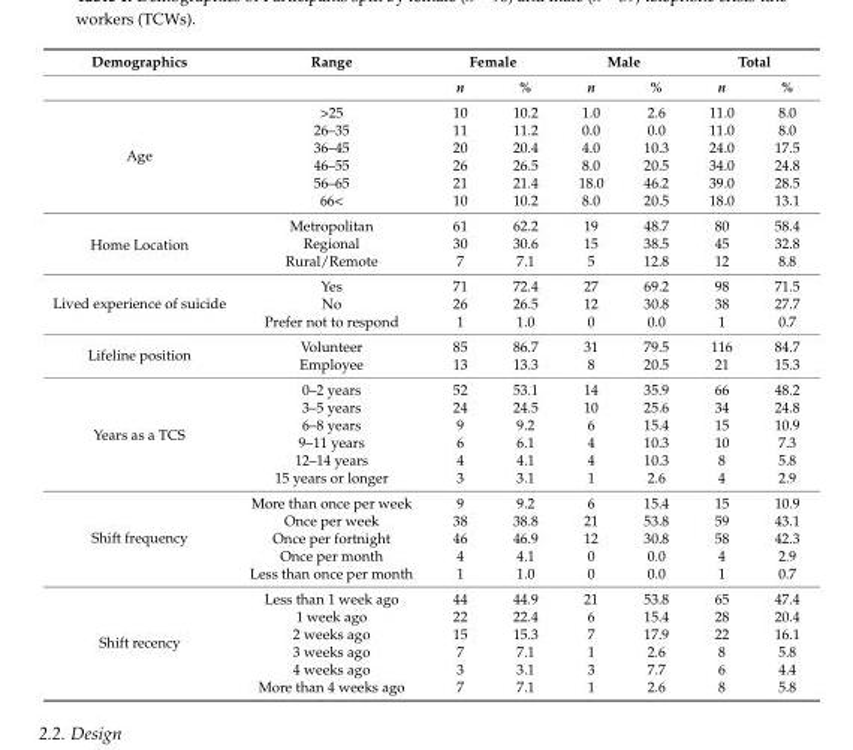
<table><thead><tr><td rowspan="2">Demographics</td><td rowspan="2">Range</td><td colspan="2">Female</td><td colspan="2">Male</td><td colspan="2">Total</td></tr><tr><td>n</td><td>%</td><td>n</td><td>%</td><td>n</td><td>%</td></tr></thead><tbody><tr><td rowspan="6">Age</td><td>&gt;25</td><td>10</td><td>10.2</td><td>1.0</td><td>2.6</td><td>11.0</td><td>8.0</td></tr><tr><td>26–35</td><td>11</td><td>11.2</td><td>0.0</td><td>0.0</td><td>11.0</td><td>8.0</td></tr><tr><td>36–45</td><td>20</td><td>20.4</td><td>4.0</td><td>10.3</td><td>24.0</td><td>17.5</td></tr><tr><td>46–55</td><td>26</td><td>26.5</td><td>8.0</td><td>20.5</td><td>34.0</td><td>24.8</td></tr><tr><td>56–65</td><td>21</td><td>21.4</td><td>18.0</td><td>46.2</td><td>39.0</td><td>28.5</td></tr><tr><td>66&lt;</td><td>10</td><td>10.2</td><td>8.0</td><td>20.5</td><td>18.0</td><td>13.1</td></tr><tr><td rowspan="3">Home Location</td><td>Metropolitan</td><td>61</td><td>62.2</td><td>19</td><td>48.7</td><td>80</td><td>58.4</td></tr><tr><td>Regional</td><td>30</td><td>30.6</td><td>15</td><td>38.5</td><td>45</td><td>32.8</td></tr><tr><td>Rural/Remote</td><td>7</td><td>7.1</td><td>5</td><td>12.8</td><td>12</td><td>8.8</td></tr><tr><td rowspan="3">Lived experience of suicide</td><td>Yes</td><td>71</td><td>72.4</td><td>27</td><td>69.2</td><td>98</td><td>71.5</td></tr><tr><td>No</td><td>26</td><td>26.5</td><td>12</td><td>30.8</td><td>38</td><td>27.7</td></tr><tr><td>Prefer not to respond</td><td>1</td><td>1.0</td><td>0</td><td>0.0</td><td>1</td><td>0.7</td></tr><tr><td rowspan="2">Lifeline position</td><td>Volunteer</td><td>85</td><td>86.7</td><td>31</td><td>79.5</td><td>116</td><td>84.7</td></tr><tr><td>Employee</td><td>13</td><td>13.3</td><td>8</td><td>20.5</td><td>21</td><td>15.3</td></tr><tr><td rowspan="6">Years as a TCS</td><td>0–2 years</td><td>52</td><td>53.1</td><td>14</td><td>35.9</td><td>66</td><td>48.2</td></tr><tr><td>3–5 years</td><td>24</td><td>24.5</td><td>10</td><td>25.6</td><td>34</td><td>24.8</td></tr><tr><td>6–8 years</td><td>9</td><td>9.2</td><td>6</td><td>15.4</td><td>15</td><td>10.9</td></tr><tr><td>9–11 years</td><td>6</td><td>6.1</td><td>4</td><td>10.3</td><td>10</td><td>7.3</td></tr><tr><td>12–14 years</td><td>4</td><td>4.1</td><td>4</td><td>10.3</td><td>8</td><td>5.8</td></tr><tr><td>15 years or longer</td><td>3</td><td>3.1</td><td>1</td><td>2.6</td><td>4</td><td>2.9</td></tr><tr><td rowspan="5">Shift frequency</td><td>More than once per week</td><td>9</td><td>9.2</td><td>6</td><td>15.4</td><td>15</td><td>10.9</td></tr><tr><td>Once per week</td><td>38</td><td>38.8</td><td>21</td><td>53.8</td><td>59</td><td>43.1</td></tr><tr><td>Once per fortnight</td><td>46</td><td>46.9</td><td>12</td><td>30.8</td><td>58</td><td>42.3</td></tr><tr><td>Once per month</td><td>4</td><td>4.1</td><td>0</td><td>0.0</td><td>4</td><td>2.9</td></tr><tr><td>Less than once per month</td><td>1</td><td>1.0</td><td>0</td><td>0.0</td><td>1</td><td>0.7</td></tr><tr><td rowspan="6">Shift recency</td><td>Less than 1 week ago</td><td>44</td><td>44.9</td><td>21</td><td>53.8</td><td>65</td><td>47.4</td></tr><tr><td>1 week ago</td><td>22</td><td>22.4</td><td>6</td><td>15.4</td><td>28</td><td>20.4</td></tr><tr><td>2 weeks ago</td><td>15</td><td>15.3</td><td>7</td><td>17.9</td><td>22</td><td>16.1</td></tr><tr><td>3 weeks ago</td><td>7</td><td>7.1</td><td>1</td><td>2.6</td><td>8</td><td>5.8</td></tr><tr><td>4 weeks ago</td><td>3</td><td>3.1</td><td>3</td><td>7.7</td><td>6</td><td>4.4</td></tr><tr><td>More than 4 weeks ago</td><td>7</td><td>7.1</td><td>1</td><td>2.6</td><td>8</td><td>5.8</td></tr></tbody></table>